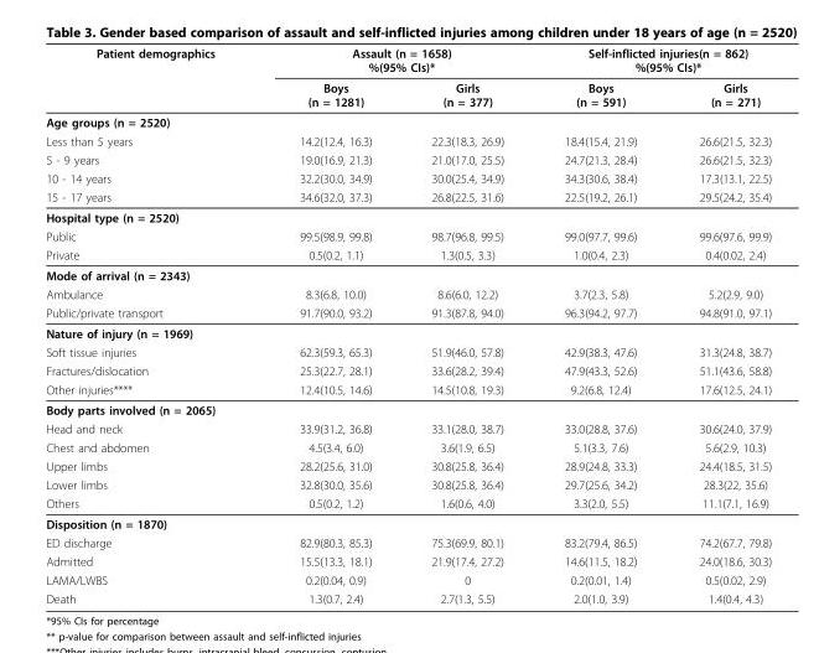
<table><thead><tr><td rowspan="2">Patient demographics</td><td colspan="2">Assault (n = 1658) %(95% CIs)*</td><td colspan="2">Self-inflicted injuries(n = 862) %(95% CIs)*</td></tr><tr><td>Boys (n = 1281)</td><td>Girls (n = 377)</td><td>Boys (n = 591)</td><td>Girls (n = 271)</td></tr></thead><tbody><tr><td colspan="5">Age groups (n = 2520)</td></tr><tr><td>Less than 5 years</td><td>14.2(12.4, 16.3)</td><td>22.3(18.3, 26.9)</td><td>18.4(15.4, 21.9)</td><td>26.6(21.5, 32.3)</td></tr><tr><td>5 - 9 years</td><td>19.0(16.9, 21.3)</td><td>21.0(17.0, 25.5)</td><td>24.7(21.3, 28.4)</td><td>26.6(21.5, 32.3)</td></tr><tr><td>10 - 14 years</td><td>32.2(30.0, 34.9)</td><td>30.0(25.4, 34.9)</td><td>34.3(30.6, 38.4)</td><td>17.3(13.1, 22.5)</td></tr><tr><td>15 - 17 years</td><td>34.6(32.0, 37.3)</td><td>26.8(22.5, 31.6)</td><td>22.5(19.2, 26.1)</td><td>29.5(24.2, 35.4)</td></tr><tr><td colspan="5">Hospital type (n = 2520)</td></tr><tr><td>Public</td><td>99.5(98.9, 99.8)</td><td>98.7(96.8, 99.5)</td><td>99.0(97.7, 99.6)</td><td>99.6(97.6, 99.9)</td></tr><tr><td>Private</td><td>0.5(0.2, 1.1)</td><td>1.3(0.5, 3.3)</td><td>1.0(0.4, 2.3)</td><td>0.4(0.02, 2.4)</td></tr><tr><td colspan="5">Mode of arrival (n = 2343)</td></tr><tr><td>Ambulance</td><td>8.3(6.8, 10.0)</td><td>8.6(6.0, 12.2)</td><td>3.7(2.3, 5.8)</td><td>5.2(2.9, 9.0)</td></tr><tr><td>Public/private transport</td><td>91.7(90.0, 93.2)</td><td>91.3(87.8, 94.0)</td><td>96.3(94.2, 97.7)</td><td>94.8(91.0, 97.1)</td></tr><tr><td colspan="5">Nature of injury (n = 1969)</td></tr><tr><td>Soft tissue injuries</td><td>62.3(59.3, 65.3)</td><td>51.9(46.0, 57.8)</td><td>42.9(38.3, 47.6)</td><td>31.3(24.8, 38.7)</td></tr><tr><td>Fractures/dislocation</td><td>25.3(22.7, 28.1)</td><td>33.6(28.2, 39.4)</td><td>47.9(43.3, 52.6)</td><td>51.1(43.6, 58.8)</td></tr><tr><td>Other injuries****</td><td>12.4(10.5, 14.6)</td><td>14.5(10.8, 19.3)</td><td>9.2(6.8, 12.4)</td><td>17.6(12.5, 24.1)</td></tr><tr><td colspan="5">Body parts involved (n = 2065)</td></tr><tr><td>Head and neck</td><td>33.9(31.2, 36.8)</td><td>33.1(28.0, 38.7)</td><td>33.0(28.8, 37.6)</td><td>30.6(24.0, 37.9)</td></tr><tr><td>Chest and abdomen</td><td>4.5(3.4, 6.0)</td><td>3.6(1.9, 6.5)</td><td>5.1(3.3, 7.6)</td><td>5.6(2.9, 10.3)</td></tr><tr><td>Upper limbs</td><td>28.2(25.6, 31.0)</td><td>30.8(25.8, 36.4)</td><td>28.9(24.8, 33.3)</td><td>24.4(18.5, 31.5)</td></tr><tr><td>Lower limbs</td><td>32.8(30.0, 35.6)</td><td>30.8(25.8, 36.4)</td><td>29.7(25.6, 34.2)</td><td>28.3(22, 35.6)</td></tr><tr><td>Others</td><td>0.5(0.2, 1.2)</td><td>1.6(0.6, 4.0)</td><td>3.3(2.0, 5.5)</td><td>11.1(7.1, 16.9)</td></tr><tr><td colspan="5">Disposition (n = 1870)</td></tr><tr><td>ED discharge</td><td>82.9(80.3, 85.3)</td><td>75.3(69.9, 80.1)</td><td>83.2(79.4, 86.5)</td><td>74.2(67.7, 79.8)</td></tr><tr><td>Admitted</td><td>15.5(13.3, 18.1)</td><td>21.9(17.4, 27.2)</td><td>14.6(11.5, 18.2)</td><td>24.0(18.6, 30.3)</td></tr><tr><td>LAMA/LWBS</td><td>0.2(0.04, 0.9)</td><td>0</td><td>0.2(0.01, 1.4)</td><td>0.5(0.02, 2.9)</td></tr><tr><td>Death</td><td>1.3(0.7, 2.4)</td><td>2.7(1.3, 5.5)</td><td>2.0(1.0, 3.9)</td><td>1.4(0.4, 4.3)</td></tr></tbody></table>